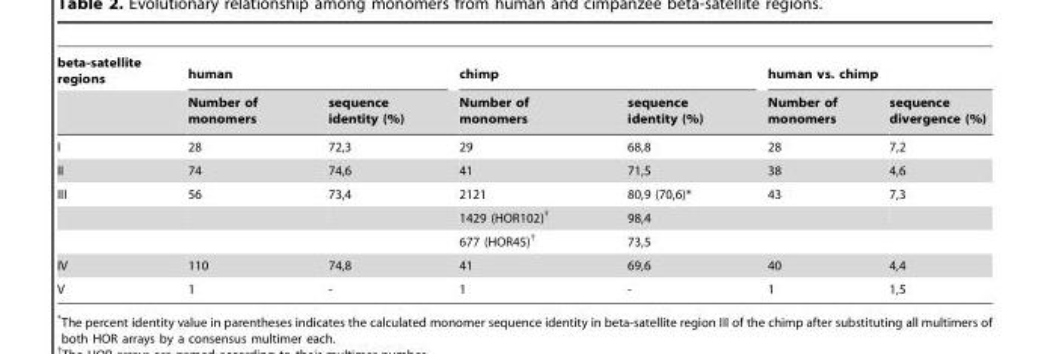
<table><thead><tr><td rowspan="2">beta-satellite regions</td><td colspan="2">human</td><td colspan="2">chimp</td><td colspan="2">human vs. chimp</td></tr><tr><td>Number of monomers</td><td>sequence identity (%)</td><td>Number of monomers</td><td>sequence identity (%)</td><td>Number of monomers</td><td>sequence divergence (%)</td></tr></thead><tbody><tr><td>I</td><td>28</td><td>72,3</td><td>29</td><td>68,8</td><td>28</td><td>7,2</td></tr><tr><td>II</td><td>74</td><td>74,6</td><td>41</td><td>71,5</td><td>38</td><td>4,6</td></tr><tr><td rowspan="3">III</td><td>56</td><td>73,4</td><td>2121</td><td>80,9 (70,6)*</td><td>43</td><td>7,3</td></tr><tr><td></td><td></td><td>1429 (HOR102)†</td><td>98,4</td><td></td><td></td></tr><tr><td></td><td></td><td>677 (HOR45)†</td><td>73,5</td><td></td><td></td></tr><tr><td>IV</td><td>110</td><td>74,8</td><td>41</td><td>69,6</td><td>40</td><td>4,4</td></tr><tr><td>V</td><td>1</td><td>-</td><td>1</td><td>-</td><td>1</td><td>1,5</td></tr></tbody></table>